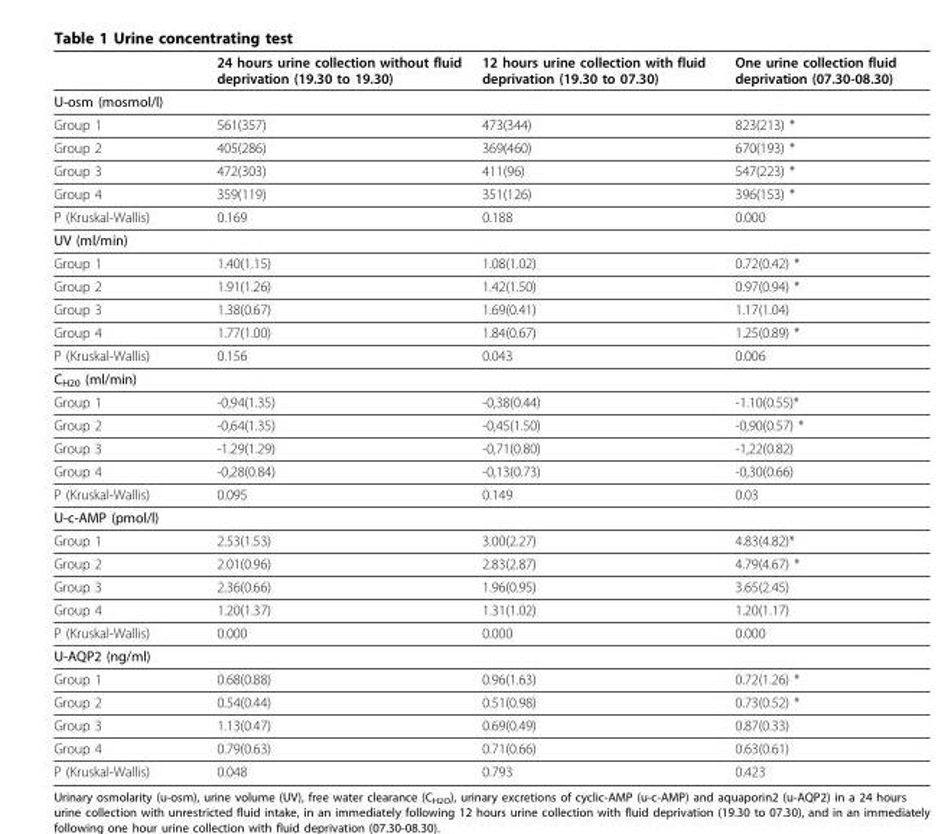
<table><thead><tr><td></td><td>24 hours urine collection without fluid deprivation (19.30 to 19.30)</td><td>12 hours urine collection with fluid deprivation (19.30 to 07.30)</td><td>One urine collection fluid deprivation (07.30-08.30)</td></tr></thead><tbody><tr><td colspan="4">U-osm (mosmol/l)</td></tr><tr><td>Group 1</td><td>561(357)</td><td>473(344)</td><td>823(213) *</td></tr><tr><td>Group 2</td><td>405(286)</td><td>369(460)</td><td>670(193) *</td></tr><tr><td>Group 3</td><td>472(303)</td><td>411(96)</td><td>547(223) *</td></tr><tr><td>Group 4</td><td>359(119)</td><td>351(126)</td><td>396(153) *</td></tr><tr><td>P (Kruskal-Wallis)</td><td>0.169</td><td>0.188</td><td>0.000</td></tr><tr><td colspan="4">UV (ml/min)</td></tr><tr><td>Group 1</td><td>1.40(1.15)</td><td>1.08(1.02)</td><td>0.72(0.42) *</td></tr><tr><td>Group 2</td><td>1.91(1.26)</td><td>1.42(1.50)</td><td>0.97(0.94) *</td></tr><tr><td>Group 3</td><td>1.38(0.67)</td><td>1.69(0.41)</td><td>1.17(1.04)</td></tr><tr><td>Group 4</td><td>1.77(1.00)</td><td>1.84(0.67)</td><td>1.25(0.89) *</td></tr><tr><td>P (Kruskal-Wallis)</td><td>0.156</td><td>0.043</td><td>0.006</td></tr><tr><td colspan="4">C<sub>H20</sub> (ml/min)</td></tr><tr><td>Group 1</td><td>-0,94(1.35)</td><td>-0,38(0.44)</td><td>-1.10(0.55)*</td></tr><tr><td>Group 2</td><td>-0,64(1.35)</td><td>-0,45(1.50)</td><td>-0,90(0.57) *</td></tr><tr><td>Group 3</td><td>-1.29(1.29)</td><td>-0,71(0.80)</td><td>-1,22(0.82)</td></tr><tr><td>Group 4</td><td>-0,28(0.84)</td><td>-0,13(0.73)</td><td>-0,30(0.66)</td></tr><tr><td>P (Kruskal-Wallis)</td><td>0.095</td><td>0.149</td><td>0.03</td></tr><tr><td colspan="4">U-c-AMP (pmol/l)</td></tr><tr><td>Group 1</td><td>2.53(1.53)</td><td>3.00(2.27)</td><td>4.83(4.82)*</td></tr><tr><td>Group 2</td><td>2.01(0.96)</td><td>2.83(2.87)</td><td>4.79(4.67) *</td></tr><tr><td>Group 3</td><td>2.36(0.66)</td><td>1.96(0.95)</td><td>3.65(2.45)</td></tr><tr><td>Group 4</td><td>1.20(1.37)</td><td>1.31(1.02)</td><td>1.20(1.17)</td></tr><tr><td>P (Kruskal-Wallis)</td><td>0.000</td><td>0.000</td><td>0.000</td></tr><tr><td colspan="4">U-AQP2 (ng/ml)</td></tr><tr><td>Group 1</td><td>0.68(0.88)</td><td>0.96(1.63)</td><td>0.72(1.26) *</td></tr><tr><td>Group 2</td><td>0.54(0.44)</td><td>0.51(0.98)</td><td>0.73(0.52) *</td></tr><tr><td>Group 3</td><td>1.13(0.47)</td><td>0.69(0.49)</td><td>0.87(0.33)</td></tr><tr><td>Group 4</td><td>0.79(0.63)</td><td>0.71(0.66)</td><td>0.63(0.61)</td></tr><tr><td>P (Kruskal-Wallis)</td><td>0.048</td><td>0.793</td><td>0.423</td></tr></tbody></table>